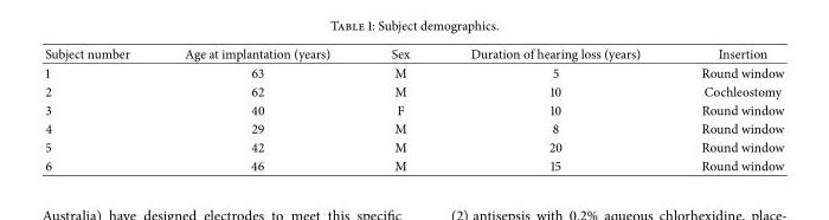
<table><thead><tr><td>Subject number</td><td>Age at implantation (years)</td><td>Sex</td><td>Duration of hearing loss (years)</td><td>Insertion</td></tr></thead><tbody><tr><td>1</td><td>63</td><td>M</td><td>5</td><td>Round window</td></tr><tr><td>2</td><td>62</td><td>M</td><td>10</td><td>Cochleostomy</td></tr><tr><td>3</td><td>40</td><td>F</td><td>10</td><td>Round window</td></tr><tr><td>4</td><td>29</td><td>M</td><td>8</td><td>Round window</td></tr><tr><td>5</td><td>42</td><td>M</td><td>20</td><td>Round window</td></tr><tr><td>6</td><td>46</td><td>M</td><td>15</td><td>Round window</td></tr></tbody></table>